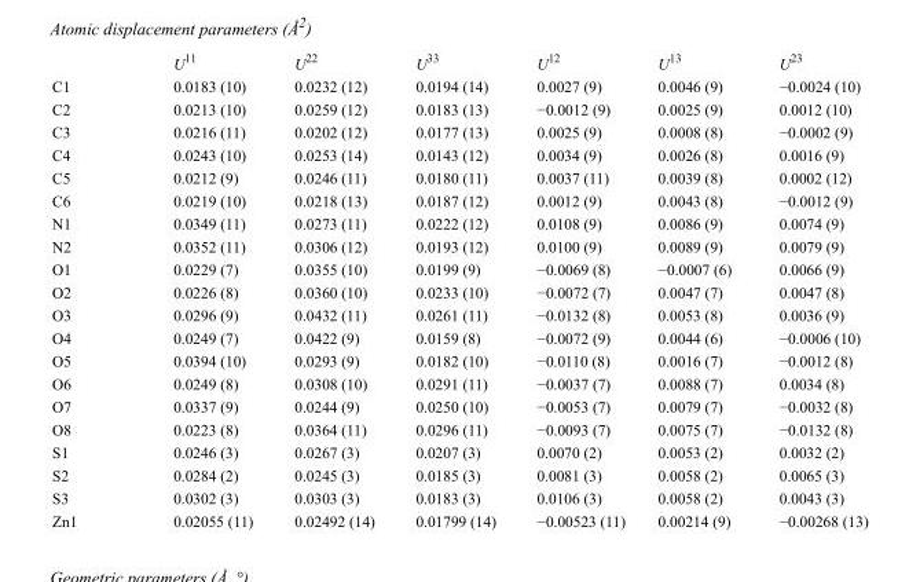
<table><thead><tr><td></td><td>U<sup>11</sup></td><td>U<sup>22</sup></td><td>U<sup>33</sup></td><td>U<sup>12</sup></td><td>U<sup>13</sup></td><td>U<sup>23</sup></td></tr></thead><tbody><tr><td>C1</td><td>0.0183 (10)</td><td>0.0232 (12)</td><td>0.0194 (14)</td><td>0.0027 (9)</td><td>0.0046 (9)</td><td>−0.0024 (10)</td></tr><tr><td>C2</td><td>0.0213 (10)</td><td>0.0259 (12)</td><td>0.0183 (13)</td><td>−0.0012 (9)</td><td>0.0025 (9)</td><td>0.0012 (10)</td></tr><tr><td>C3</td><td>0.0216 (11)</td><td>0.0202 (12)</td><td>0.0177 (13)</td><td>0.0025 (9)</td><td>0.0008 (8)</td><td>−0.0002 (9)</td></tr><tr><td>C4</td><td>0.0243 (10)</td><td>0.0253 (14)</td><td>0.0143 (12)</td><td>0.0034 (9)</td><td>0.0026 (8)</td><td>0.0016 (9)</td></tr><tr><td>C5</td><td>0.0212 (9)</td><td>0.0246 (11)</td><td>0.0180 (11)</td><td>0.0037 (11)</td><td>0.0039 (8)</td><td>0.0002 (12)</td></tr><tr><td>C6</td><td>0.0219 (10)</td><td>0.0218 (13)</td><td>0.0187 (12)</td><td>0.0012 (9)</td><td>0.0043 (8)</td><td>−0.0012 (9)</td></tr><tr><td>N1</td><td>0.0349 (11)</td><td>0.0273 (11)</td><td>0.0222 (12)</td><td>0.0108 (9)</td><td>0.0086 (9)</td><td>0.0074 (9)</td></tr><tr><td>N2</td><td>0.0352 (11)</td><td>0.0306 (12)</td><td>0.0193 (12)</td><td>0.0100 (9)</td><td>0.0089 (9)</td><td>0.0079 (9)</td></tr><tr><td>O1</td><td>0.0229 (7)</td><td>0.0355 (10)</td><td>0.0199 (9)</td><td>−0.0069 (8)</td><td>−0.0007 (6)</td><td>0.0066 (9)</td></tr><tr><td>O2</td><td>0.0226 (8)</td><td>0.0360 (10)</td><td>0.0233 (10)</td><td>−0.0072 (7)</td><td>0.0047 (7)</td><td>0.0047 (8)</td></tr><tr><td>O3</td><td>0.0296 (9)</td><td>0.0432 (11)</td><td>0.0261 (11)</td><td>−0.0132 (8)</td><td>0.0053 (8)</td><td>0.0036 (9)</td></tr><tr><td>O4</td><td>0.0249 (7)</td><td>0.0422 (9)</td><td>0.0159 (8)</td><td>−0.0072 (9)</td><td>0.0044 (6)</td><td>−0.0006 (10)</td></tr><tr><td>O5</td><td>0.0394 (10)</td><td>0.0293 (9)</td><td>0.0182 (10)</td><td>−0.0110 (8)</td><td>0.0016 (7)</td><td>−0.0012 (8)</td></tr><tr><td>O6</td><td>0.0249 (8)</td><td>0.0308 (10)</td><td>0.0291 (11)</td><td>−0.0037 (7)</td><td>0.0088 (7)</td><td>0.0034 (8)</td></tr><tr><td>O7</td><td>0.0337 (9)</td><td>0.0244 (9)</td><td>0.0250 (10)</td><td>−0.0053 (7)</td><td>0.0079 (7)</td><td>−0.0032 (8)</td></tr><tr><td>O8</td><td>0.0223 (8)</td><td>0.0364 (11)</td><td>0.0296 (11)</td><td>−0.0093 (7)</td><td>0.0075 (7)</td><td>−0.0132 (8)</td></tr><tr><td>S1</td><td>0.0246 (3)</td><td>0.0267 (3)</td><td>0.0207 (3)</td><td>0.0070 (2)</td><td>0.0053 (2)</td><td>0.0032 (2)</td></tr><tr><td>S2</td><td>0.0284 (2)</td><td>0.0245 (3)</td><td>0.0185 (3)</td><td>0.0081 (3)</td><td>0.0058 (2)</td><td>0.0065 (3)</td></tr><tr><td>S3</td><td>0.0302 (3)</td><td>0.0303 (3)</td><td>0.0183 (3)</td><td>0.0106 (3)</td><td>0.0058 (2)</td><td>0.0043 (3)</td></tr><tr><td>Zn1</td><td>0.02055 (11)</td><td>0.02492 (14)</td><td>0.01799 (14)</td><td>−0.00523 (11)</td><td>0.00214 (9)</td><td>−0.00268 (13)</td></tr></tbody></table>